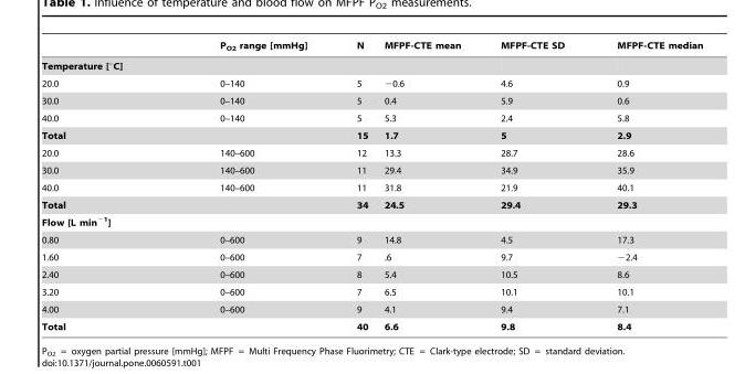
<table><thead><tr><td></td><td>P<sub>O2</sub> range [mmHg]</td><td>N</td><td>MFPF-CTE mean</td><td>MFPF-CTE SD</td><td>MFPF-CTE median</td></tr></thead><tbody><tr><td colspan="6">Temperature [°C]</td></tr><tr><td>20.0</td><td>0–140</td><td>5</td><td>−0.6</td><td>4.6</td><td>0.9</td></tr><tr><td>30.0</td><td>0–140</td><td>5</td><td>0.4</td><td>5.9</td><td>0.6</td></tr><tr><td>40.0</td><td>0–140</td><td>5</td><td>5.3</td><td>2.4</td><td>5.8</td></tr><tr><td>Total</td><td></td><td>15</td><td>1.7</td><td>5</td><td>2.9</td></tr><tr><td>20.0</td><td>140–600</td><td>12</td><td>13.3</td><td>28.7</td><td>28.6</td></tr><tr><td>30.0</td><td>140–600</td><td>11</td><td>29.4</td><td>34.9</td><td>35.9</td></tr><tr><td>40.0</td><td>140–600</td><td>11</td><td>31.8</td><td>21.9</td><td>40.1</td></tr><tr><td>Total</td><td></td><td>34</td><td>24.5</td><td>29.4</td><td>29.3</td></tr><tr><td colspan="6">Flow [L min<sup>−1</sup>]</td></tr><tr><td>0.80</td><td>0–600</td><td>9</td><td>14.8</td><td>4.5</td><td>17.3</td></tr><tr><td>1.60</td><td>0–600</td><td>7</td><td>.6</td><td>9.7</td><td>−2.4</td></tr><tr><td>2.40</td><td>0–600</td><td>8</td><td>5.4</td><td>10.5</td><td>8.6</td></tr><tr><td>3.20</td><td>0–600</td><td>7</td><td>6.5</td><td>10.1</td><td>10.1</td></tr><tr><td>4.00</td><td>0–600</td><td>9</td><td>4.1</td><td>9.4</td><td>7.1</td></tr><tr><td>Total</td><td></td><td>40</td><td>6.6</td><td>9.8</td><td>8.4</td></tr></tbody></table>